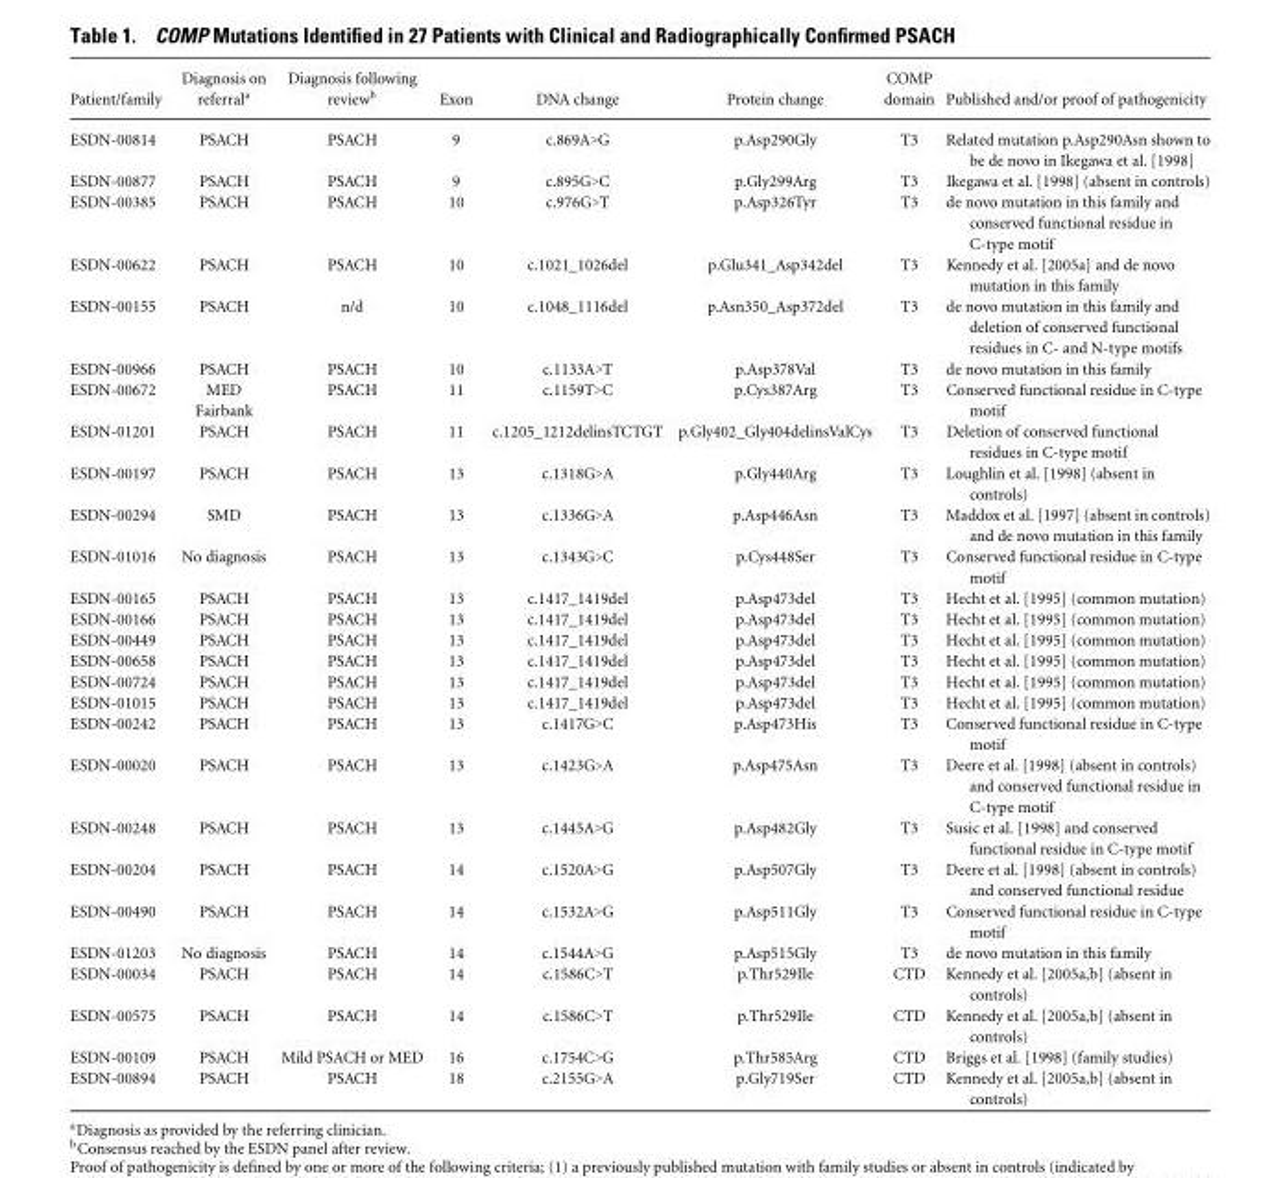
<table><thead><tr><td>Patient/family</td><td>Diagnosis on referral<sup>a</sup></td><td>Diagnosis following review<sup>b</sup></td><td>Exon</td><td>DNA change</td><td>Protein change</td><td>COMP domain</td><td>Published and/or proof of pathogenicity</td></tr></thead><tbody><tr><td>ESDN-00814</td><td>PSACH</td><td>PSACH</td><td>9</td><td>c.869A&gt;G</td><td>p.Asp290Gly</td><td>T3</td><td>Related mutation p.Asp290Asn shown to be de novo in Ikegawa et al. [1998]</td></tr><tr><td>ESDN-00877</td><td>PSACH</td><td>PSACH</td><td>9</td><td>c.895G&gt;C</td><td>p.Gly299Arg</td><td>T3</td><td>Ikegawa et al. [1998] (absent in controls)</td></tr><tr><td>ESDN-00385</td><td>PSACH</td><td>PSACH</td><td>10</td><td>c.976G&gt;T</td><td>p.Asp326Tyr</td><td>T3</td><td>de novo mutation in this family and conserved functional residue in C-type motif</td></tr><tr><td>ESDN-00622</td><td>PSACH</td><td>PSACH</td><td>10</td><td>c.1021_1026del</td><td>p.Glu341_Asp342del</td><td>T3</td><td>Kennedy et al. [2005a] and de novo mutation in this family</td></tr><tr><td>ESDN-00155</td><td>PSACH</td><td>n/d</td><td>10</td><td>c.1048_1116del</td><td>p.Asn350_Asp372del</td><td>T3</td><td>de novo mutation in this family and deletion of conserved functional residues in C- and N-type motifs</td></tr><tr><td>ESDN-00966</td><td>PSACH</td><td>PSACH</td><td>10</td><td>c.1133A&gt;T</td><td>p.Asp378Val</td><td>T3</td><td>de novo mutation in this family</td></tr><tr><td>ESDN-00672</td><td>MED Fairbank</td><td>PSACH</td><td>11</td><td>c.1159T&gt;C</td><td>p.Cys387Arg</td><td>T3</td><td>Conserved functional residue in C-type motif</td></tr><tr><td>ESDN-01201</td><td>PSACH</td><td>PSACH</td><td>11</td><td>c.1205_1212delinsTCTGT</td><td>p.Gly402_Gly404delinsValCys</td><td>T3</td><td>Deletion of conserved functional residues in C-type motif</td></tr><tr><td>ESDN-00197</td><td>PSACH</td><td>PSACH</td><td>13</td><td>c.1318G&gt;A</td><td>p.Gly440Arg</td><td>T3</td><td>Loughlin et al. [1998] (absent in controls)</td></tr><tr><td>ESDN-00294</td><td>SMD</td><td>PSACH</td><td>13</td><td>c.1336G&gt;A</td><td>p.Asp446Asn</td><td>T3</td><td>Maddox et al. [1997] (absent in controls) and de novo mutation in this family</td></tr><tr><td>ESDN-01016</td><td>No diagnosis</td><td>PSACH</td><td>13</td><td>c.1343G&gt;C</td><td>p.Cys448Ser</td><td>T3</td><td>Conserved functional residue in C-type motif</td></tr><tr><td>ESDN-00165</td><td>PSACH</td><td>PSACH</td><td>13</td><td>c.1417_1419del</td><td>p.Asp473del</td><td>T3</td><td>Hecht et al. [1995] (common mutation)</td></tr><tr><td>ESDN-00166</td><td>PSACH</td><td>PSACH</td><td>13</td><td>c.1417_1419del</td><td>p.Asp473del</td><td>T3</td><td>Hecht et al. [1995] (common mutation)</td></tr><tr><td>ESDN-00449</td><td>PSACH</td><td>PSACH</td><td>13</td><td>c.1417_1419del</td><td>p.Asp473del</td><td>T3</td><td>Hecht et al. [1995] (common mutation)</td></tr><tr><td>ESDN-00658</td><td>PSACH</td><td>PSACH</td><td>13</td><td>c.1417_1419del</td><td>p.Asp473del</td><td>T3</td><td>Hecht et al. [1995] (common mutation)</td></tr><tr><td>ESDN-00724</td><td>PSACH</td><td>PSACH</td><td>13</td><td>c.1417_1419del</td><td>p.Asp473del</td><td>T3</td><td>Hecht et al. [1995] (common mutation)</td></tr><tr><td>ESDN-01015</td><td>PSACH</td><td>PSACH</td><td>13</td><td>c.1417_1419del</td><td>p.Asp473del</td><td>T3</td><td>Hecht et al. [1995] (common mutation)</td></tr><tr><td>ESDN-00242</td><td>PSACH</td><td>PSACH</td><td>13</td><td>c.1417G&gt;C</td><td>p.Asp473His</td><td>T3</td><td>Conserved functional residue in C-type motif</td></tr><tr><td>ESDN-00020</td><td>PSACH</td><td>PSACH</td><td>13</td><td>c.1423G&gt;A</td><td>p.Asp475Asn</td><td>T3</td><td>Deere et al. [1998] (absent in controls) and conserved functional residue in C-type motif</td></tr><tr><td>ESDN-00248</td><td>PSACH</td><td>PSACH</td><td>13</td><td>c.1445A&gt;G</td><td>p.Asp482Gly</td><td>T3</td><td>Susic et al. [1998] and conserved functional residue in C-type motif</td></tr><tr><td>ESDN-00204</td><td>PSACH</td><td>PSACH</td><td>14</td><td>c.1520A&gt;G</td><td>p.Asp507Gly</td><td>T3</td><td>Deere et al. [1998] (absent in controls) and conserved functional residue</td></tr><tr><td>ESDN-00490</td><td>PSACH</td><td>PSACH</td><td>14</td><td>c.1532A&gt;G</td><td>p.Asp511Gly</td><td>T3</td><td>Conserved functional residue in C-type motif</td></tr><tr><td>ESDN-01203</td><td>No diagnosis</td><td>PSACH</td><td>14</td><td>c.1544A&gt;G</td><td>p.Asp515Gly</td><td>T3</td><td>de novo mutation in this family</td></tr><tr><td>ESDN-00034</td><td>PSACH</td><td>PSACH</td><td>14</td><td>c.1586C&gt;T</td><td>p.Thr529Ile</td><td>CTD</td><td>Kennedy et al. [2005a,b] (absent in controls)</td></tr><tr><td>ESDN-00575</td><td>PSACH</td><td>PSACH</td><td>14</td><td>c.1586C&gt;T</td><td>p.Thr529Ile</td><td>CTD</td><td>Kennedy et al. [2005a,b] (absent in controls)</td></tr><tr><td>ESDN-00109</td><td>PSACH</td><td>Mild PSACH or MED</td><td>16</td><td>c.1754C&gt;G</td><td>p.Thr585Arg</td><td>CTD</td><td>Briggs et al. [1998] (family studies)</td></tr><tr><td>ESDN-00894</td><td>PSACH</td><td>PSACH</td><td>18</td><td>c.2155G&gt;A</td><td>p.Gly719Ser</td><td>CTD</td><td>Kennedy et al. [2005a,b] (absent in controls)</td></tr></tbody></table>